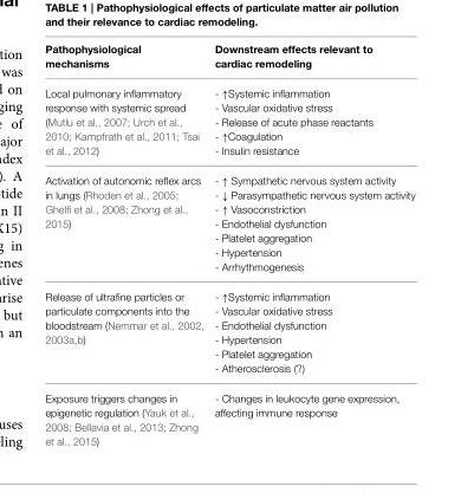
<table><thead><tr><td>Pathophysiological mechanisms</td><td>Downstream effects relevant to cardiac remodeling</td></tr></thead><tbody><tr><td>Local pulmonary inflammatory response with systemic spread (Mutlu et al., 2007; Urch et al., 2010; Kampfrath et al., 2011; Tsai et al., 2012)</td><td>- ↑Systemic inflammation - Vascular oxidative stress - Release of acute phase reactants - ↑Coagulation - Insulin resistance</td></tr><tr><td>Activation of autonomic reflex arcs in lungs (Rhoden et al., 2005; Ghelfi et al., 2008; Zhong et al., 2015)</td><td>- ↑ Sympathetic nervous system activity - ↓ Parasympathetic nervous system activity - ↑ Vasoconstriction - Endothelial dysfunction - Platelet aggregation - Hypertension - Arrhythmogenesis</td></tr><tr><td>Release of ultrafine particles or particulate components into the bloodstream (Nemmar et al., 2002, 2003a,b)</td><td>- ↑Systemic inflammation - Vascular oxidative stress - Endothelial dysfunction - Hypertension - Platelet aggregation - Atherosclerosis (?)</td></tr><tr><td>Exposure triggers changes in epigenetic regulation (Yauk et al., 2008; Bellavia et al., 2013; Zhong et al., 2015)</td><td>- Changes in leukocyte gene expression, affecting immune response</td></tr></tbody></table>